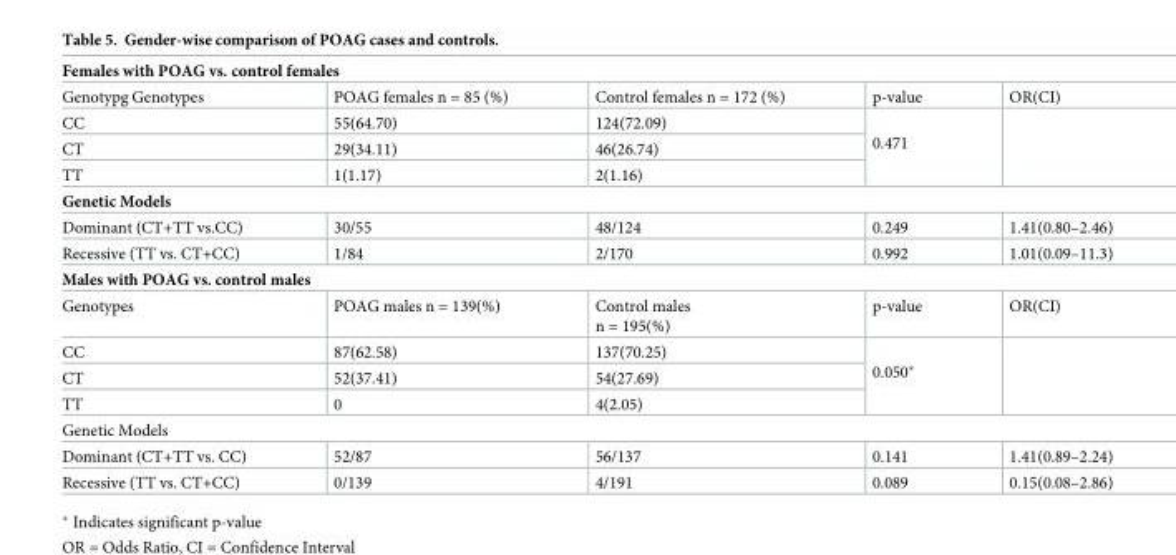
<table><tbody><tr><td colspan="5">Females with POAG vs. control females</td></tr><tr><td>Genotypg Genotypes</td><td>POAG females n = 85 (%)</td><td>Control females n = 172 (%)</td><td>p-value</td><td>OR(CI)</td></tr><tr><td>CC</td><td>55(64.70)</td><td>124(72.09)</td><td rowspan="3">0.471</td><td rowspan="3"></td></tr><tr><td>CT</td><td>29(34.11)</td><td>46(26.74)</td></tr><tr><td>TT</td><td>1(1.17)</td><td>2(1.16)</td></tr><tr><td colspan="5">Genetic Models</td></tr><tr><td>Dominant (CT+TT vs.CC)</td><td>30/55</td><td>48/124</td><td>0.249</td><td>1.41(0.80–2.46)</td></tr><tr><td>Recessive (TT vs. CT+CC)</td><td>1/84</td><td>2/170</td><td>0.992</td><td>1.01(0.09–11.3)</td></tr><tr><td colspan="5">Males with POAG vs. control males</td></tr><tr><td>Genotypes</td><td>POAG males n = 139(%)</td><td>Control males n = 195(%)</td><td>p-value</td><td>OR(CI)</td></tr><tr><td>CC</td><td>87(62.58)</td><td>137(70.25)</td><td rowspan="3">0.050*</td><td rowspan="3"></td></tr><tr><td>CT</td><td>52(37.41)</td><td>54(27.69)</td></tr><tr><td>TT</td><td>0</td><td>4(2.05)</td></tr><tr><td colspan="5">Genetic Models</td></tr><tr><td>Dominant (CT+TT vs. CC)</td><td>52/87</td><td>56/137</td><td>0.141</td><td>1.41(0.89–2.24)</td></tr><tr><td>Recessive (TT vs. CT+CC)</td><td>0/139</td><td>4/191</td><td>0.089</td><td>0.15(0.08–2.86)</td></tr></tbody></table>